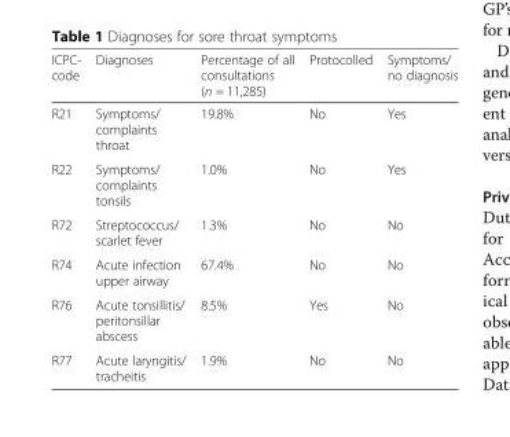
<table><thead><tr><td>ICPC- code</td><td>Diagnoses</td><td>Percentage of all consultations (n = 11,285)</td><td>Protocolled</td><td>Symptoms/ no diagnosis</td></tr></thead><tbody><tr><td>R21</td><td>Symptoms/ complaints throat</td><td>19.8%</td><td>No</td><td>Yes</td></tr><tr><td>R22</td><td>Symptoms/ complaints tonsils</td><td>1.0%</td><td>No</td><td>Yes</td></tr><tr><td>R72</td><td>Streptococcus/ scarlet fever</td><td>1.3%</td><td>No</td><td>No</td></tr><tr><td>R74</td><td>Acute infection upper airway</td><td>67.4%</td><td>No</td><td>No</td></tr><tr><td>R76</td><td>Acute tonsillitis/ peritonsillar abscess</td><td>8.5%</td><td>Yes</td><td>No</td></tr><tr><td>R77</td><td>Acute laryngitis/ tracheitis</td><td>1.9%</td><td>No</td><td>No</td></tr></tbody></table>